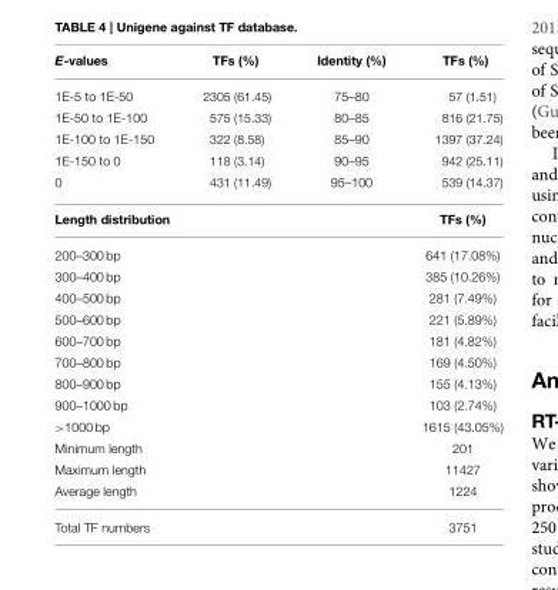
<table><thead><tr><td>E-values</td><td>TFs (%)</td><td>Identity (%)</td><td>TFs (%)</td></tr></thead><tbody><tr><td>1E-5 to 1E-50</td><td>2305 (61.45)</td><td>75–80</td><td>57 (1.51)</td></tr><tr><td>1E-50 to 1E-100</td><td>575 (15.33)</td><td>80–85</td><td>816 (21.75)</td></tr><tr><td>1E-100 to 1E-150</td><td>322 (8.58)</td><td>85–90</td><td>1397 (37.24)</td></tr><tr><td>1E-150 to 0</td><td>118 (3.14)</td><td>90–95</td><td>942 (25.11)</td></tr><tr><td>0</td><td>431 (11.49)</td><td>95–100</td><td>539 (14.37)</td></tr><tr><td>Length distribution</td><td></td><td></td><td>TFs (%)</td></tr><tr><td>200–300 bp</td><td></td><td></td><td>641 (17.08%)</td></tr><tr><td>300–400 bp</td><td></td><td></td><td>385 (10.26%)</td></tr><tr><td>400–500 bp</td><td></td><td></td><td>281 (7.49%)</td></tr><tr><td>500–600 bp</td><td></td><td></td><td>221 (5.89%)</td></tr><tr><td>600–700 bp</td><td></td><td></td><td>181 (4.82%)</td></tr><tr><td>700–800 bp</td><td></td><td></td><td>169 (4.50%)</td></tr><tr><td>800–900 bp</td><td></td><td></td><td>155 (4.13%)</td></tr><tr><td>900–1000 bp</td><td></td><td></td><td>103 (2.74%)</td></tr><tr><td>&gt;1000 bp</td><td></td><td></td><td>1615 (43.05%)</td></tr><tr><td>Minimum length</td><td></td><td></td><td>201</td></tr><tr><td>Maximum length</td><td></td><td></td><td>11427</td></tr><tr><td>Average length</td><td></td><td></td><td>1224</td></tr><tr><td>Total TF numbers</td><td></td><td></td><td>3751</td></tr></tbody></table>